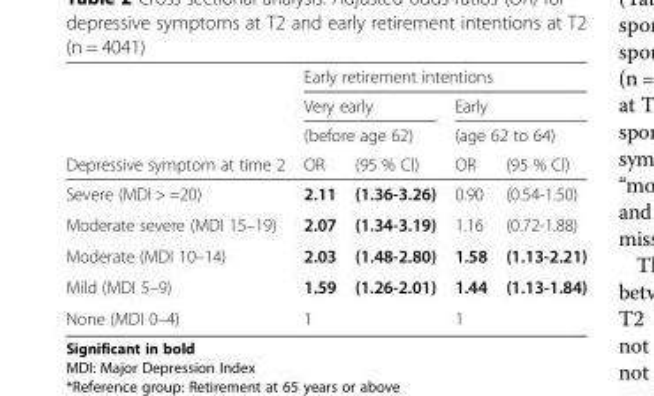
<table><thead><tr><td rowspan="4">Depressive symptom at time 2</td><td colspan="4">Early retirement intentions</td></tr><tr><td rowspan="2" colspan="2">Very early (before age 62)</td><td rowspan="2" colspan="2">Early (age 62 to 64)</td></tr><tr></tr><tr><td>OR</td><td>(95 % Cl)</td><td>OR</td><td>(95 % Cl)</td></tr></thead><tbody><tr><td>Severe (MDI &gt; =20)</td><td>2.11</td><td>(1.36-3.26)</td><td>0.90</td><td>(0.54-1.50)</td></tr><tr><td>Moderate severe (MDI 15–19)</td><td>2.07</td><td>(1.34-3.19)</td><td>1.16</td><td>(0.72-1.88)</td></tr><tr><td>Moderate (MDI 10–14)</td><td>2.03</td><td>(1.48-2.80)</td><td>1.58</td><td>(1.13-2.21)</td></tr><tr><td>Mild (MDI 5–9)</td><td>1.59</td><td>(1.26-2.01)</td><td>1.44</td><td>(1.13-1.84)</td></tr><tr><td>None (MDI 0–4)</td><td>1</td><td></td><td>1</td><td></td></tr></tbody></table>